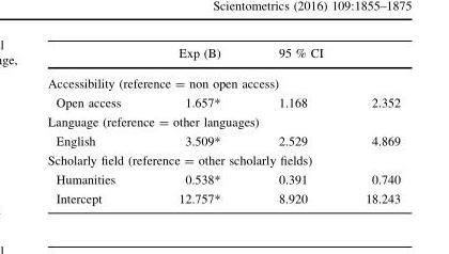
<table><thead><tr><td></td><td>Exp (B)</td><td colspan="2">95 % CI</td></tr><tr><td colspan="4">Accessibility (reference = non open access)</td></tr><tr><td>Open access</td><td>1.657*</td><td>1.168</td><td>2.352</td></tr></thead><tbody><tr><td colspan="4">Language (reference = other languages)</td></tr><tr><td>English</td><td>3.509*</td><td>2.529</td><td>4.869</td></tr><tr><td colspan="4">Scholarly field (reference = other scholarly fields)</td></tr><tr><td>Humanities</td><td>0.538*</td><td>0.391</td><td>0.740</td></tr><tr><td>Intercept</td><td>12.757*</td><td>8.920</td><td>18.243</td></tr></tbody></table>